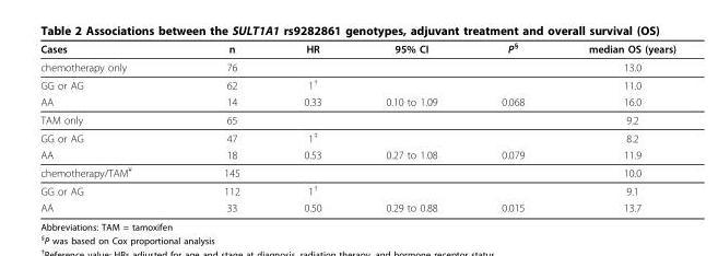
<table><thead><tr><td>Cases</td><td>n</td><td>HR</td><td>95% CI</td><td>P<sup>§</sup></td><td>median OS (years)</td></tr></thead><tbody><tr><td>chemotherapy only</td><td>76</td><td></td><td></td><td></td><td>13.0</td></tr><tr><td>GG or AG</td><td>62</td><td>1<sup>†</sup></td><td></td><td></td><td>11.0</td></tr><tr><td>AA</td><td>14</td><td>0.33</td><td>0.10 to 1.09</td><td>0.068</td><td>16.0</td></tr><tr><td>TAM only</td><td>65</td><td></td><td></td><td></td><td>9.2</td></tr><tr><td>GG or AG</td><td>47</td><td>1<sup>‡</sup></td><td></td><td></td><td>8.2</td></tr><tr><td>AA</td><td>18</td><td>0.53</td><td>0.27 to 1.08</td><td>0.079</td><td>11.9</td></tr><tr><td>chemotherapy/TAM<sup>¥</sup></td><td>145</td><td></td><td></td><td></td><td>10.0</td></tr><tr><td>GG or AG</td><td>112</td><td>1<sup>†</sup></td><td></td><td></td><td>9.1</td></tr><tr><td>AA</td><td>33</td><td>0.50</td><td>0.29 to 0.88</td><td>0.015</td><td>13.7</td></tr></tbody></table>